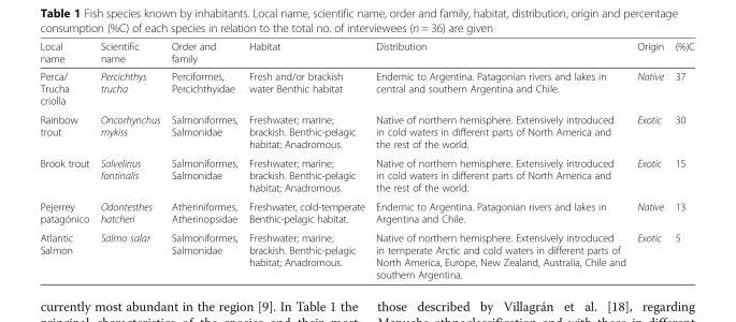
<table><thead><tr><td>Local name</td><td>Scientific name</td><td>Order and family</td><td>Habitat</td><td>Distribution</td><td>Origin</td><td>(%)C</td></tr></thead><tbody><tr><td>Perca/ Trucha criolla</td><td>Percichthys trucha</td><td>Perciformes, Percichthyidae</td><td>Fresh and/or brackish water Benthic habitat</td><td>Endemic to Argentina. Patagonian rivers and lakes in central and southern Argentina and Chile.</td><td>Native</td><td>37</td></tr><tr><td>Rainbow trout</td><td>Oncorhynchus mykiss</td><td>Salmoniformes, Salmonidae</td><td>Freshwater; marine; brackish. Benthic-pelagic habitat; Anadromous.</td><td>Native of northern hemisphere. Extensively introduced in cold waters in different parts of North America and the rest of the world.</td><td>Exotic</td><td>30</td></tr><tr><td>Brook trout</td><td>Salvelinus fontinalis</td><td>Salmoniformes, Salmonidae</td><td>Freshwater; marine; brackish. Benthic-pelagic habitat; Anadromous.</td><td>Native of northern hemisphere. Extensively introduced in cold waters in different parts of North America and the rest of the world.</td><td>Exotic</td><td>15</td></tr><tr><td>Pejerrey patagónico</td><td>Odontesthes hatcheri</td><td>Atheriniformes, Atherinopsidae</td><td>Freshwater, cold-temperate Benthic-pelagic habitat.</td><td>Endemic to Argentina. Patagonian rivers and lakes in Argentina and Chile.</td><td>Native</td><td>13</td></tr><tr><td>Atlantic Salmon</td><td>Salmo salar</td><td>Salmoniformes, Salmonidae</td><td>Freshwater; marine; brackish. Benthic-pelagic habitat; Anadromous.</td><td>Native of northern hemisphere. Extensively introduced in temperate Arctic and cold waters in different parts of North America, Europe, New Zealand, Australia, Chile and southern Argentina.</td><td>Exotic</td><td>5</td></tr></tbody></table>